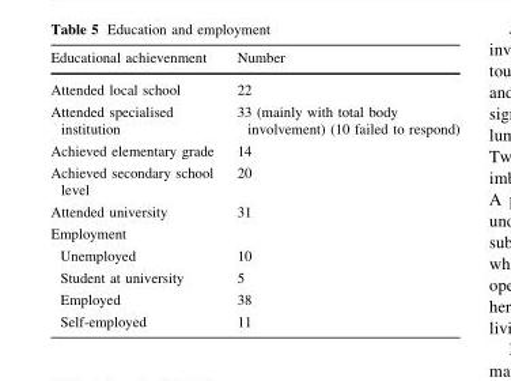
<table><thead><tr><td>Educational achievenment</td><td>Number</td></tr></thead><tbody><tr><td>Attended local school</td><td>22</td></tr><tr><td>Attended specialised institution</td><td>33 (mainly with total body involvement) (10 failed to respond)</td></tr><tr><td>Achieved elementary grade</td><td>14</td></tr><tr><td>Achieved secondary school level</td><td>20</td></tr><tr><td>Attended university</td><td>31</td></tr><tr><td colspan="2">Employment</td></tr><tr><td>Unemployed</td><td>10</td></tr><tr><td>Student at university</td><td>5</td></tr><tr><td>Employed</td><td>38</td></tr><tr><td>Self-employed</td><td>11</td></tr></tbody></table>